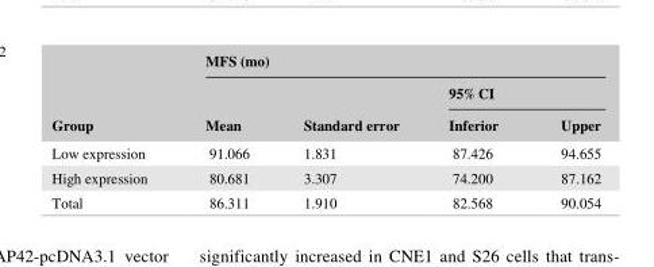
<table><thead><tr><td rowspan="3">Group</td><td colspan="4">MFS (mo)</td></tr><tr><td rowspan="2">Mean</td><td rowspan="2">Standard error</td><td colspan="2">95% CI</td></tr><tr><td>Inferior</td><td>Upper</td></tr></thead><tbody><tr><td>Low expression</td><td>91.066</td><td>1.831</td><td>87.426</td><td>94.655</td></tr><tr><td>High expression</td><td>80.681</td><td>3.307</td><td>74.200</td><td>87.162</td></tr><tr><td>Total</td><td>86.311</td><td>1.910</td><td>82.568</td><td>90.054</td></tr></tbody></table>